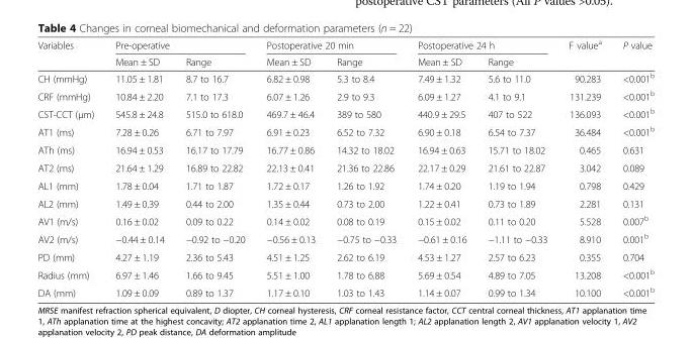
<table><thead><tr><td rowspan="2">Variables</td><td colspan="2">Pre-operative</td><td colspan="2">Postoperative 20 min</td><td colspan="2">Postoperative 24 h</td><td rowspan="2">F value<sup>a</sup></td><td rowspan="2">P value</td></tr><tr><td>Mean ± SD</td><td>Range</td><td>Mean ± SD</td><td>Range</td><td>Mean ± SD</td><td>Range</td></tr></thead><tbody><tr><td>CH (mmHg)</td><td>11.05 ± 1.81</td><td>8.7 to 16.7</td><td>6.82 ± 0.98</td><td>5.3 to 8.4</td><td>7.49 ± 1.32</td><td>5.6 to 11.0</td><td>90.283</td><td>&lt;0.001<sup>b</sup></td></tr><tr><td>CRF (mmHg)</td><td>10.84 ± 2.20</td><td>7.1 to 17.3</td><td>6.07 ± 1.26</td><td>2.9 to 9.3</td><td>6.09 ± 1.27</td><td>4.1 to 9.1</td><td>131.239</td><td>&lt;0.001<sup>b</sup></td></tr><tr><td>CST-CCT (μm)</td><td>545.8 ± 24.8</td><td>515.0 to 618.0</td><td>469.7 ± 46.4</td><td>389 to 580</td><td>440.9 ± 29.5</td><td>407 to 522</td><td>136.093</td><td>&lt;0.001<sup>b</sup></td></tr><tr><td>AT1 (ms)</td><td>7.28 ± 0.26</td><td>6.71 to 7.97</td><td>6.91 ± 0.23</td><td>6.52 to 7.32</td><td>6.90 ± 0.18</td><td>6.54 to 7.37</td><td>36.484</td><td>&lt;0.001<sup>b</sup></td></tr><tr><td>ATh (ms)</td><td>16.94 ± 0.53</td><td>16.17 to 17.79</td><td>16.77 ± 0.86</td><td>14.32 to 18.02</td><td>16.94 ± 0.63</td><td>15.71 to 18.02</td><td>0.465</td><td>0.631</td></tr><tr><td>AT2 (ms)</td><td>21.64 ± 1.29</td><td>16.89 to 22.82</td><td>22.13 ± 0.41</td><td>21.36 to 22.86</td><td>22.17 ± 0.29</td><td>21.61 to 22.87</td><td>3.042</td><td>0.089</td></tr><tr><td>AL1 (mm)</td><td>1.78 ± 0.04</td><td>1.71 to 1.87</td><td>1.72 ± 0.17</td><td>1.26 to 1.92</td><td>1.74 ± 0.20</td><td>1.19 to 1.94</td><td>0.798</td><td>0.429</td></tr><tr><td>AL2 (mm)</td><td>1.49 ± 0.39</td><td>0.44 to 2.00</td><td>1.35 ± 0.44</td><td>0.73 to 2.00</td><td>1.22 ± 0.41</td><td>0.73 to 1.89</td><td>2.281</td><td>0.131</td></tr><tr><td>AV1 (m/s)</td><td>0.16 ± 0.02</td><td>0.09 to 0.22</td><td>0.14 ± 0.02</td><td>0.08 to 0.19</td><td>0.15 ± 0.02</td><td>0.11 to 0.20</td><td>5.528</td><td>0.007<sup>b</sup></td></tr><tr><td>AV2 (m/s)</td><td>−0.44 ± 0.14</td><td>−0.92 to −0.20</td><td>−0.56 ± 0.13</td><td>−0.75 to −0.33</td><td>−0.61 ± 0.16</td><td>−1.11 to −0.33</td><td>8.910</td><td>0.001<sup>b</sup></td></tr><tr><td>PD (mm)</td><td>4.27 ± 1.19</td><td>2.36 to 5.43</td><td>4.51 ± 1.25</td><td>2.62 to 6.19</td><td>4.53 ± 1.27</td><td>2.57 to 6.23</td><td>0.355</td><td>0.704</td></tr><tr><td>Radius (mm)</td><td>6.97 ± 1.46</td><td>1.66 to 9.45</td><td>5.51 ± 1.00</td><td>1.78 to 6.88</td><td>5.69 ± 0.54</td><td>4.89 to 7.05</td><td>13.208</td><td>&lt;0.001<sup>b</sup></td></tr><tr><td>DA (mm)</td><td>1.09 ± 0.09</td><td>0.89 to 1.37</td><td>1.17 ± 0.10</td><td>1.03 to 1.43</td><td>1.14 ± 0.07</td><td>0.99 to 1.34</td><td>10.100</td><td>&lt;0.001<sup>b</sup></td></tr></tbody></table>